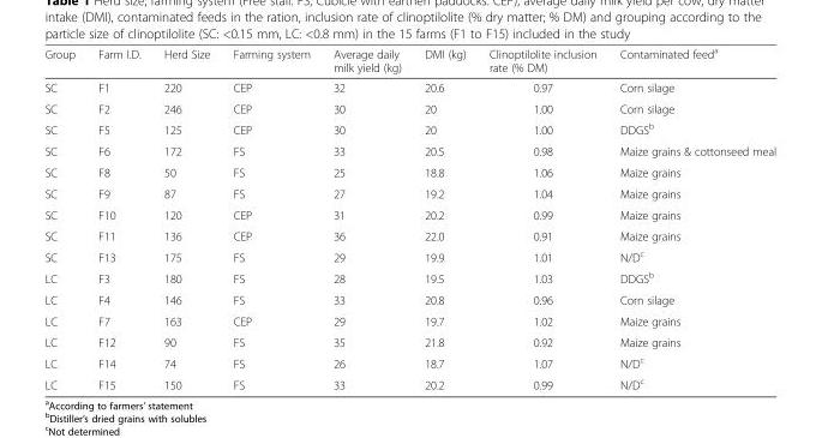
<table><thead><tr><td>Group</td><td>Farm I.D.</td><td>Herd Size</td><td>Farming system</td><td>Average daily milk yield (kg)</td><td>DMI (kg)</td><td>Clinoptilolite inclusion rate (% DM)</td><td>Contaminated feed<sup>a</sup></td></tr></thead><tbody><tr><td>SC</td><td>F1</td><td>220</td><td>CEP</td><td>32</td><td>20.6</td><td>0.97</td><td>Corn silage</td></tr><tr><td>SC</td><td>F2</td><td>246</td><td>CEP</td><td>30</td><td>20</td><td>1.00</td><td>Corn silage</td></tr><tr><td>SC</td><td>F5</td><td>125</td><td>CEP</td><td>30</td><td>20</td><td>1.00</td><td>DDGS<sup>b</sup></td></tr><tr><td>SC</td><td>F6</td><td>172</td><td>FS</td><td>33</td><td>20.5</td><td>0.98</td><td>Maize grains &amp; cottonseed meal</td></tr><tr><td>SC</td><td>F8</td><td>50</td><td>FS</td><td>25</td><td>18.8</td><td>1.06</td><td>Maize grains</td></tr><tr><td>SC</td><td>F9</td><td>87</td><td>FS</td><td>27</td><td>19.2</td><td>1.04</td><td>Maize grains</td></tr><tr><td>SC</td><td>F10</td><td>120</td><td>CEP</td><td>31</td><td>20.2</td><td>0.99</td><td>Maize grains</td></tr><tr><td>SC</td><td>F11</td><td>136</td><td>CEP</td><td>36</td><td>22.0</td><td>0.91</td><td>Maize grains</td></tr><tr><td>SC</td><td>F13</td><td>175</td><td>FS</td><td>29</td><td>19.9</td><td>1.01</td><td>N/D<sup>c</sup></td></tr><tr><td>LC</td><td>F3</td><td>180</td><td>FS</td><td>28</td><td>19.5</td><td>1.03</td><td>DDGS<sup>b</sup></td></tr><tr><td>LC</td><td>F4</td><td>146</td><td>FS</td><td>33</td><td>20.8</td><td>0.96</td><td>Corn silage</td></tr><tr><td>LC</td><td>F7</td><td>163</td><td>CEP</td><td>29</td><td>19.7</td><td>1.02</td><td>Maize grains</td></tr><tr><td>LC</td><td>F12</td><td>90</td><td>FS</td><td>35</td><td>21.8</td><td>0.92</td><td>Maize grains</td></tr><tr><td>LC</td><td>F14</td><td>74</td><td>FS</td><td>26</td><td>18.7</td><td>1.07</td><td>N/D<sup>c</sup></td></tr><tr><td>LC</td><td>F15</td><td>150</td><td>FS</td><td>33</td><td>20.2</td><td>0.99</td><td>N/D<sup>c</sup></td></tr></tbody></table>